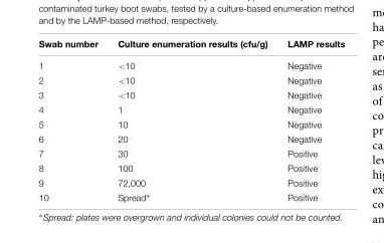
<table><thead><tr><td>Swab number</td><td>Culture enumeration results (cfu/g)</td><td>LAMP results</td></tr></thead><tbody><tr><td>1</td><td>&lt;10</td><td>Negative</td></tr><tr><td>2</td><td>&lt;10</td><td>Negative</td></tr><tr><td>3</td><td>&lt;10</td><td>Negative</td></tr><tr><td>4</td><td>1</td><td>Negative</td></tr><tr><td>5</td><td>10</td><td>Negative</td></tr><tr><td>6</td><td>20</td><td>Negative</td></tr><tr><td>7</td><td>30</td><td>Positive</td></tr><tr><td>8</td><td>100</td><td>Positive</td></tr><tr><td>9</td><td>72,000</td><td>Positive</td></tr><tr><td>10</td><td>Spread∗</td><td>Positive</td></tr></tbody></table>